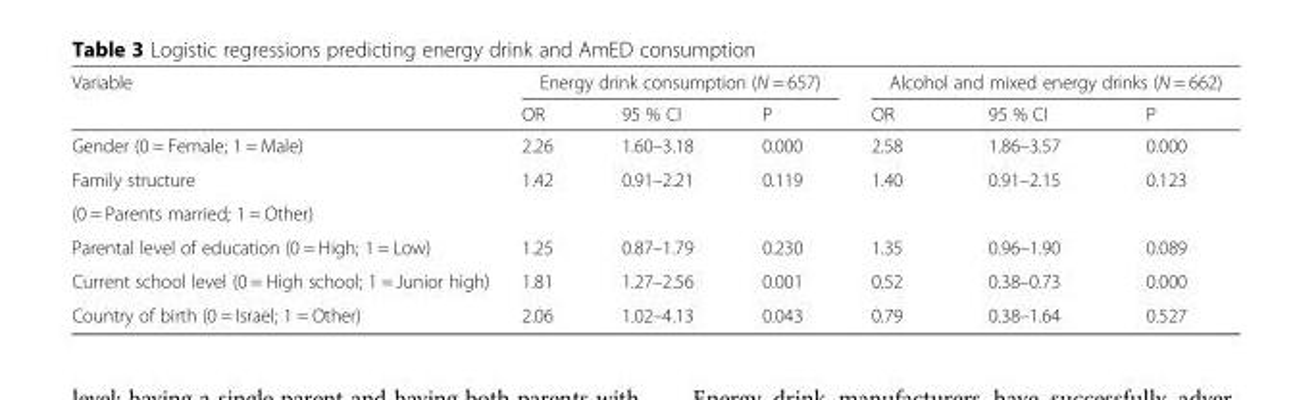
<table><thead><tr><td rowspan="2">Variable</td><td colspan="3">Energy drink consumption (N = 657)</td><td colspan="3">Alcohol and mixed energy drinks (N = 662)</td></tr><tr><td>OR</td><td>95 % CI</td><td>P</td><td>OR</td><td>95 % CI</td><td>P</td></tr></thead><tbody><tr><td>Gender (0 = Female; 1 = Male)</td><td>2.26</td><td>1.60–3.18</td><td>0.000</td><td>2.58</td><td>1.86–3.57</td><td>0.000</td></tr><tr><td>Family structure</td><td>1.42</td><td>0.91–2.21</td><td>0.119</td><td>1.40</td><td>0.91–2.15</td><td>0.123</td></tr><tr><td colspan="7">(0 = Parents married; 1 = Other)</td></tr><tr><td>Parental level of education (0 = High; 1 = Low)</td><td>1.25</td><td>0.87–1.79</td><td>0.230</td><td>1.35</td><td>0.96–1.90</td><td>0.089</td></tr><tr><td>Current school level (0 = High school; 1 = Junior high)</td><td>1.81</td><td>1.27–2.56</td><td>0.001</td><td>0.52</td><td>0.38–0.73</td><td>0.000</td></tr><tr><td>Country of birth (0 = Israel; 1 = Other)</td><td>2.06</td><td>1.02–4.13</td><td>0.043</td><td>0.79</td><td>0.38–1.64</td><td>0.527</td></tr></tbody></table>